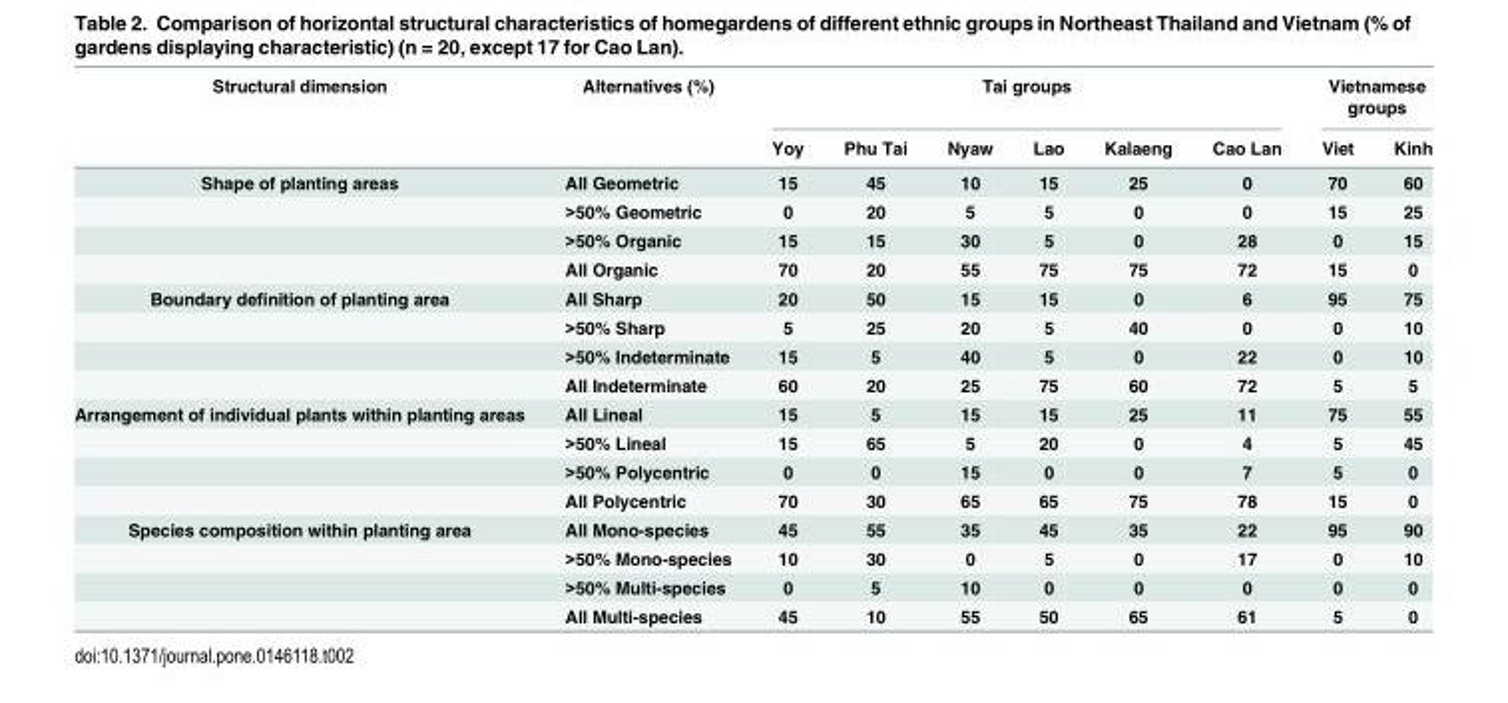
<table><thead><tr><td rowspan="2">Structural dimension</td><td rowspan="2">Alternatives (%)</td><td colspan="6">Tai groups</td><td colspan="2">Vietnamese groups</td></tr><tr><td>Yoy</td><td>Phu Tai</td><td>Nyaw</td><td>Lao</td><td>Kalaeng</td><td>Cao Lan</td><td>Viet</td><td>Kinh</td></tr></thead><tbody><tr><td rowspan="4">Shape of planting areas</td><td>All Geometric</td><td>15</td><td>45</td><td>10</td><td>15</td><td>25</td><td>0</td><td>70</td><td>60</td></tr><tr><td>&gt;50% Geometric</td><td>0</td><td>20</td><td>5</td><td>5</td><td>0</td><td>0</td><td>15</td><td>25</td></tr><tr><td>&gt;50% Organic</td><td>15</td><td>15</td><td>30</td><td>5</td><td>0</td><td>28</td><td>0</td><td>15</td></tr><tr><td>All Organic</td><td>70</td><td>20</td><td>55</td><td>75</td><td>75</td><td>72</td><td>15</td><td>0</td></tr><tr><td rowspan="4">Boundary definition of planting area</td><td>All Sharp</td><td>20</td><td>50</td><td>15</td><td>15</td><td>0</td><td>6</td><td>95</td><td>75</td></tr><tr><td>&gt;50% Sharp</td><td>5</td><td>25</td><td>20</td><td>5</td><td>40</td><td>0</td><td>0</td><td>10</td></tr><tr><td>&gt;50% Indeterminate</td><td>15</td><td>5</td><td>40</td><td>5</td><td>0</td><td>22</td><td>0</td><td>10</td></tr><tr><td>All Indeterminate</td><td>60</td><td>20</td><td>25</td><td>75</td><td>60</td><td>72</td><td>5</td><td>5</td></tr><tr><td rowspan="4">Arrangement of individual plants within planting areas</td><td>All Lineal</td><td>15</td><td>5</td><td>15</td><td>15</td><td>25</td><td>11</td><td>75</td><td>55</td></tr><tr><td>&gt;50% Lineal</td><td>15</td><td>65</td><td>5</td><td>20</td><td>0</td><td>4</td><td>5</td><td>45</td></tr><tr><td>&gt;50% Polycentric</td><td>0</td><td>0</td><td>15</td><td>0</td><td>0</td><td>7</td><td>5</td><td>0</td></tr><tr><td>All Polycentric</td><td>70</td><td>30</td><td>65</td><td>65</td><td>75</td><td>78</td><td>15</td><td>0</td></tr><tr><td rowspan="4">Species composition within planting area</td><td>All Mono-species</td><td>45</td><td>55</td><td>35</td><td>45</td><td>35</td><td>22</td><td>95</td><td>90</td></tr><tr><td>&gt;50% Mono-species</td><td>10</td><td>30</td><td>0</td><td>5</td><td>0</td><td>17</td><td>0</td><td>10</td></tr><tr><td>&gt;50% Multi-species</td><td>0</td><td>5</td><td>10</td><td>0</td><td>0</td><td>0</td><td>0</td><td>0</td></tr><tr><td>All Multi-species</td><td>45</td><td>10</td><td>55</td><td>50</td><td>65</td><td>61</td><td>5</td><td>0</td></tr></tbody></table>